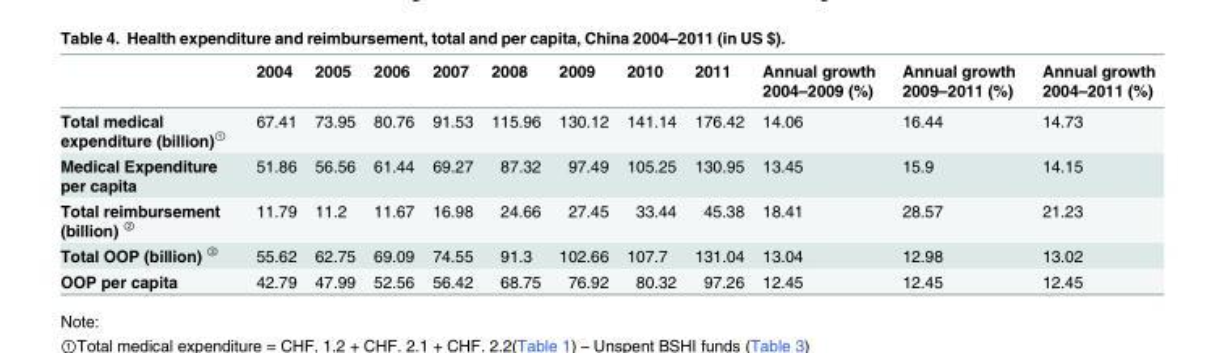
<table><thead><tr><td></td><td>2004</td><td>2005</td><td>2006</td><td>2007</td><td>2008</td><td>2009</td><td>2010</td><td>2011</td><td>Annual growth 2004–2009 (%)</td><td>Annual growth 2009–2011 (%)</td><td>Annual growth 2004–2011 (%)</td></tr></thead><tbody><tr><td>Total medical expenditure (billion)<sup>①</sup></td><td>67.41</td><td>73.95</td><td>80.76</td><td>91.53</td><td>115.96</td><td>130.12</td><td>141.14</td><td>176.42</td><td>14.06</td><td>16.44</td><td>14.73</td></tr><tr><td>Medical Expenditure per capita</td><td>51.86</td><td>56.56</td><td>61.44</td><td>69.27</td><td>87.32</td><td>97.49</td><td>105.25</td><td>130.95</td><td>13.45</td><td>15.9</td><td>14.15</td></tr><tr><td>Total reimbursement (billion) <sup>②</sup></td><td>11.79</td><td>11.2</td><td>11.67</td><td>16.98</td><td>24.66</td><td>27.45</td><td>33.44</td><td>45.38</td><td>18.41</td><td>28.57</td><td>21.23</td></tr><tr><td>Total OOP (billion) <sup>③</sup></td><td>55.62</td><td>62.75</td><td>69.09</td><td>74.55</td><td>91.3</td><td>102.66</td><td>107.7</td><td>131.04</td><td>13.04</td><td>12.98</td><td>13.02</td></tr><tr><td>OOP per capita</td><td>42.79</td><td>47.99</td><td>52.56</td><td>56.42</td><td>68.75</td><td>76.92</td><td>80.32</td><td>97.26</td><td>12.45</td><td>12.45</td><td>12.45</td></tr></tbody></table>